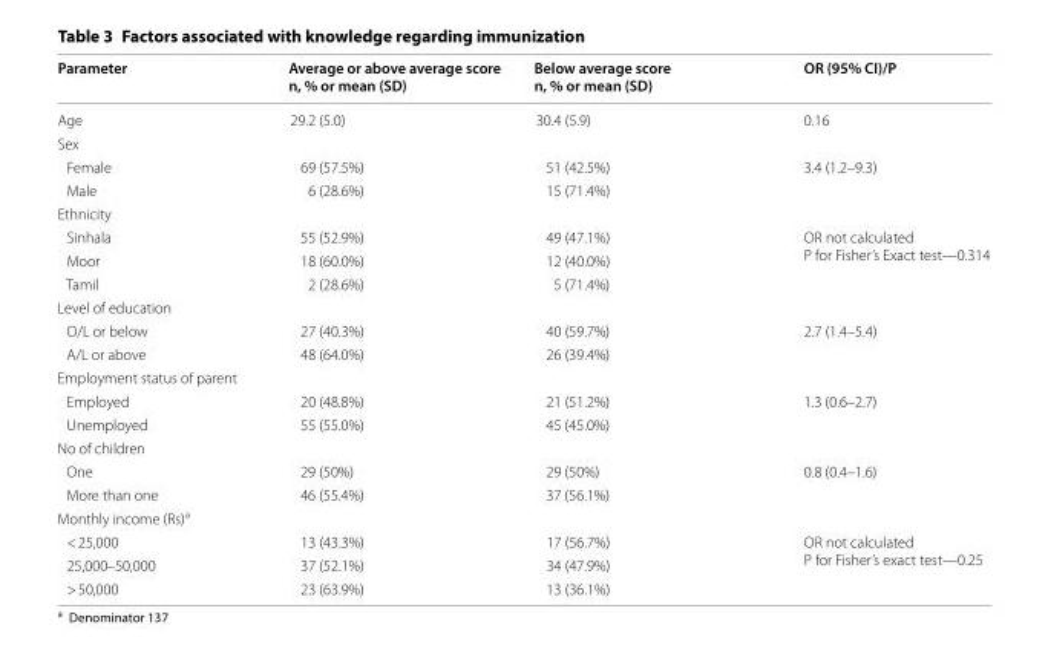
<table><thead><tr><td>Parameter</td><td>Average or above average score n, % or mean (SD)</td><td>Below average score n, % or mean (SD)</td><td>OR (95% CI)/P</td></tr></thead><tbody><tr><td>Age</td><td>29.2 (5.0)</td><td>30.4 (5.9)</td><td>0.16</td></tr><tr><td colspan="4">Sex</td></tr><tr><td>Female</td><td>69 (57.5%)</td><td>51 (42.5%)</td><td>3.4 (1.2–9.3)</td></tr><tr><td>Male</td><td>6 (28.6%)</td><td>15 (71.4%)</td><td></td></tr><tr><td colspan="4">Ethnicity</td></tr><tr><td>Sinhala</td><td>55 (52.9%)</td><td>49 (47.1%)</td><td rowspan="3">OR not calculated P for Fisher’s Exact test—0.314</td></tr><tr><td>Moor</td><td>18 (60.0%)</td><td>12 (40.0%)</td></tr><tr><td>Tamil</td><td>2 (28.6%)</td><td>5 (71.4%)</td></tr><tr><td colspan="4">Level of education</td></tr><tr><td>O/L or below</td><td>27 (40.3%)</td><td>40 (59.7%)</td><td rowspan="2">2.7 (1.4–5.4)</td></tr><tr><td>A/L or above</td><td>48 (64.0%)</td><td>26 (39.4%)</td></tr><tr><td colspan="4">Employment status of parent</td></tr><tr><td>Employed</td><td>20 (48.8%)</td><td>21 (51.2%)</td><td rowspan="2">1.3 (0.6–2.7)</td></tr><tr><td>Unemployed</td><td>55 (55.0%)</td><td>45 (45.0%)</td></tr><tr><td colspan="4">No of children</td></tr><tr><td>One</td><td>29 (50%)</td><td>29 (50%)</td><td rowspan="2">0.8 (0.4–1.6)</td></tr><tr><td>More than one</td><td>46 (55.4%)</td><td>37 (56.1%)</td></tr><tr><td colspan="4">Monthly income (Rs)<sup>a</sup></td></tr><tr><td>&lt; 25,000</td><td>13 (43.3%)</td><td>17 (56.7%)</td><td rowspan="3">OR not calculated P for Fisher’s exact test—0.25</td></tr><tr><td>25,000–50,000</td><td>37 (52.1%)</td><td>34 (47.9%)</td></tr><tr><td>&gt; 50,000</td><td>23 (63.9%)</td><td>13 (36.1%)</td></tr></tbody></table>